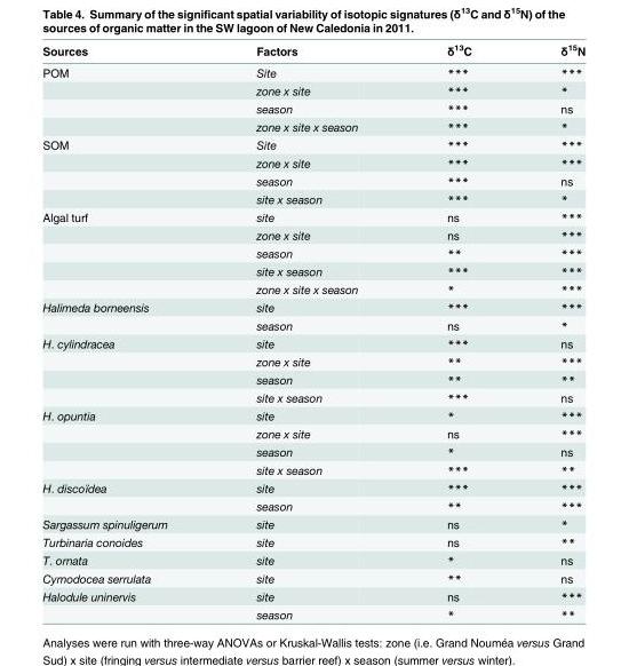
<table><thead><tr><td>Sources</td><td>Factors</td><td>δ<sup>13</sup>C</td><td>δ<sup>15</sup>N</td></tr></thead><tbody><tr><td rowspan="4">POM</td><td>Site</td><td>***</td><td>***</td></tr><tr><td>zone x site</td><td>***</td><td>*</td></tr><tr><td>season</td><td>***</td><td>ns</td></tr><tr><td>zone x site x season</td><td>***</td><td>*</td></tr><tr><td rowspan="4">SOM</td><td>Site</td><td>***</td><td>***</td></tr><tr><td>zone x site</td><td>***</td><td>***</td></tr><tr><td>season</td><td>***</td><td>ns</td></tr><tr><td>site x season</td><td>***</td><td>*</td></tr><tr><td rowspan="5">Algal turf</td><td>site</td><td>ns</td><td>***</td></tr><tr><td>zone x site</td><td>ns</td><td>***</td></tr><tr><td>season</td><td>**</td><td>***</td></tr><tr><td>site x season</td><td>***</td><td>***</td></tr><tr><td>zone x site x season</td><td>*</td><td>***</td></tr><tr><td rowspan="2">Halimeda borneensis</td><td>site</td><td>***</td><td>***</td></tr><tr><td>season</td><td>ns</td><td>*</td></tr><tr><td rowspan="4">H. cylindracea</td><td>site</td><td>***</td><td>ns</td></tr><tr><td>zone x site</td><td>**</td><td>***</td></tr><tr><td>season</td><td>**</td><td>**</td></tr><tr><td>site x season</td><td>***</td><td>ns</td></tr><tr><td rowspan="4">H. opuntia</td><td>site</td><td>*</td><td>***</td></tr><tr><td>zone x site</td><td>ns</td><td>***</td></tr><tr><td>season</td><td>*</td><td>ns</td></tr><tr><td>site x season</td><td>***</td><td>**</td></tr><tr><td rowspan="2">H. discoïdea</td><td>site</td><td>***</td><td>***</td></tr><tr><td>season</td><td>**</td><td>***</td></tr><tr><td>Sargassum spinuligerum</td><td>site</td><td>ns</td><td>*</td></tr><tr><td>Turbinaria conoides</td><td>site</td><td>ns</td><td>**</td></tr><tr><td>T. ornata</td><td>site</td><td>*</td><td>ns</td></tr><tr><td>Cymodocea serrulata</td><td>site</td><td>**</td><td>ns</td></tr><tr><td rowspan="2">Halodule uninervis</td><td>site</td><td>ns</td><td>***</td></tr><tr><td>season</td><td>*</td><td>**</td></tr></tbody></table>